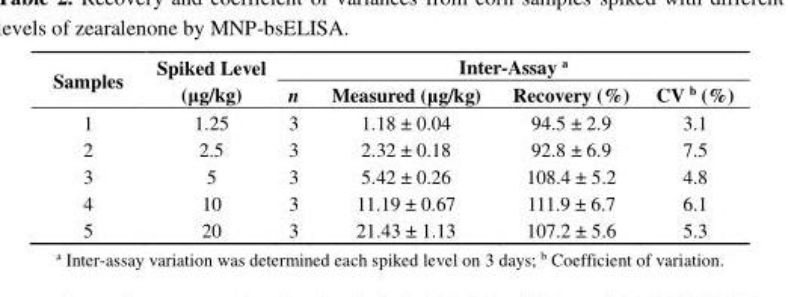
<table><thead><tr><td rowspan="2">Samples</td><td rowspan="2">Spiked Level (μg/kg)</td><td colspan="4">Inter-Assay <sup>a</sup></td></tr><tr><td>n</td><td>Measured (μg/kg)</td><td>Recovery (%)</td><td>CV <sup>b</sup> (%)</td></tr></thead><tbody><tr><td>1</td><td>1.25</td><td>3</td><td>1.18 ± 0.04</td><td>94.5 ± 2.9</td><td>3.1</td></tr><tr><td>2</td><td>2.5</td><td>3</td><td>2.32 ± 0.18</td><td>92.8 ± 6.9</td><td>7.5</td></tr><tr><td>3</td><td>5</td><td>3</td><td>5.42 ± 0.26</td><td>108.4 ± 5.2</td><td>4.8</td></tr><tr><td>4</td><td>10</td><td>3</td><td>11.19 ± 0.67</td><td>111.9 ± 6.7</td><td>6.1</td></tr><tr><td>5</td><td>20</td><td>3</td><td>21.43 ± 1.13</td><td>107.2 ± 5.6</td><td>5.3</td></tr></tbody></table>